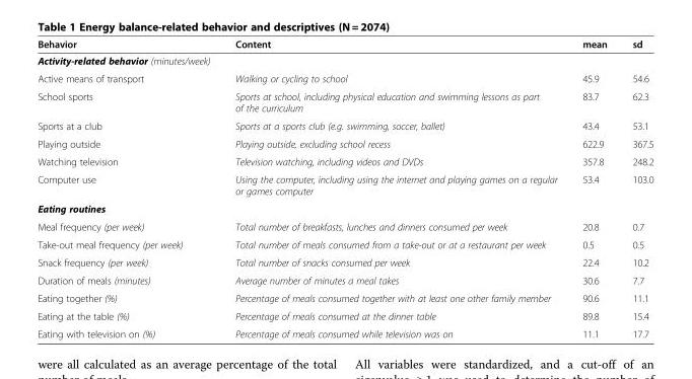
<table><thead><tr><td>Behavior</td><td>Content</td><td>mean</td><td>sd</td></tr></thead><tbody><tr><td colspan="4">Activity-related behavior (minutes/week)</td></tr><tr><td>Active means of transport</td><td>Walking or cycling to school</td><td>45.9</td><td>54.6</td></tr><tr><td>School sports</td><td>Sports at school, including physical education and swimming lessons as part of the curriculum</td><td>83.7</td><td>62.3</td></tr><tr><td>Sports at a club</td><td>Sports at a sports club (e.g. swimming, soccer, ballet)</td><td>43.4</td><td>53.1</td></tr><tr><td>Playing outside</td><td>Playing outside, excluding school recess</td><td>622.9</td><td>367.5</td></tr><tr><td>Watching television</td><td>Television watching, including videos and DVDs</td><td>357.8</td><td>248.2</td></tr><tr><td>Computer use</td><td>Using the computer, including using the internet and playing games on a regular or games computer</td><td>53.4</td><td>103.0</td></tr><tr><td colspan="4">Eating routines</td></tr><tr><td>Meal frequency (per week)</td><td>Total number of breakfasts, lunches and dinners consumed per week</td><td>20.8</td><td>0.7</td></tr><tr><td>Take-out meal frequency (per week)</td><td>Total number of meals consumed from a take-out or at a restaurant per week</td><td>0.5</td><td>0.5</td></tr><tr><td>Snack frequency (per week)</td><td>Total number of snacks consumed per week</td><td>22.4</td><td>10.2</td></tr><tr><td>Duration of meals (minutes)</td><td>Average number of minutes a meal takes</td><td>30.6</td><td>7.7</td></tr><tr><td>Eating together (%)</td><td>Percentage of meals consumed together with at least one other family member</td><td>90.6</td><td>11.1</td></tr><tr><td>Eating at the table (%)</td><td>Percentage of meals consumed at the dinner table</td><td>89.8</td><td>15.4</td></tr><tr><td>Eating with television on (%)</td><td>Percentage of meals consumed while television was on</td><td>11.1</td><td>17.7</td></tr></tbody></table>